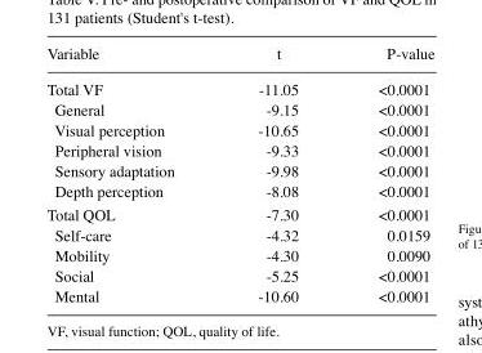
<table><thead><tr><td>Variable</td><td>t</td><td>P-value</td></tr></thead><tbody><tr><td>Total VF</td><td>-11.05</td><td>&lt;0.0001</td></tr><tr><td>General</td><td>-9.15</td><td>&lt;0.0001</td></tr><tr><td>Visual perception</td><td>-10.65</td><td>&lt;0.0001</td></tr><tr><td>Peripheral vision</td><td>-9.33</td><td>&lt;0.0001</td></tr><tr><td>Sensory adaptation</td><td>-9.98</td><td>&lt;0.0001</td></tr><tr><td>Depth perception</td><td>-8.08</td><td>&lt;0.0001</td></tr><tr><td>Total QOL</td><td>-7.30</td><td>&lt;0.0001</td></tr><tr><td>Self-care</td><td>-4.32</td><td>0.0159</td></tr><tr><td>Mobility</td><td>-4.30</td><td>0.0090</td></tr><tr><td>Social</td><td>-5.25</td><td>&lt;0.0001</td></tr><tr><td>Mental</td><td>-10.60</td><td>&lt;0.0001</td></tr></tbody></table>